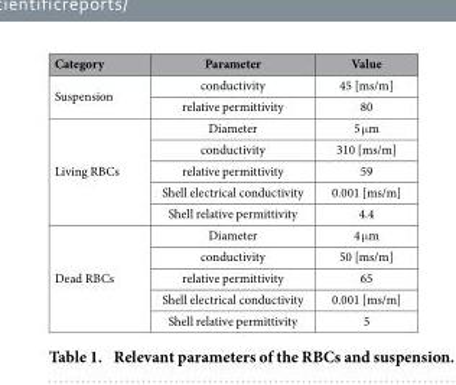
<table><thead><tr><td>Category</td><td>Parameter</td><td>Value</td></tr></thead><tbody><tr><td rowspan="2">Suspension</td><td>conductivity</td><td>45 [ms/m]</td></tr><tr><td>relative permittivity</td><td>80</td></tr><tr><td rowspan="5">Living RBCs</td><td>Diameter</td><td>5 μ m</td></tr><tr><td>conductivity</td><td>310 [ms/m]</td></tr><tr><td>relative permittivity</td><td>59</td></tr><tr><td>Shell electrical conductivity</td><td>0.001 [ms/m]</td></tr><tr><td>Shell relative permittivity</td><td>4.4</td></tr><tr><td rowspan="5">Dead RBCs</td><td>Diameter</td><td>4 μ m</td></tr><tr><td>conductivity</td><td>50 [ms/m]</td></tr><tr><td>relative permittivity</td><td>65</td></tr><tr><td>Shell electrical conductivity</td><td>0.001 [ms/m]</td></tr><tr><td>Shell relative permittivity</td><td>5</td></tr></tbody></table>